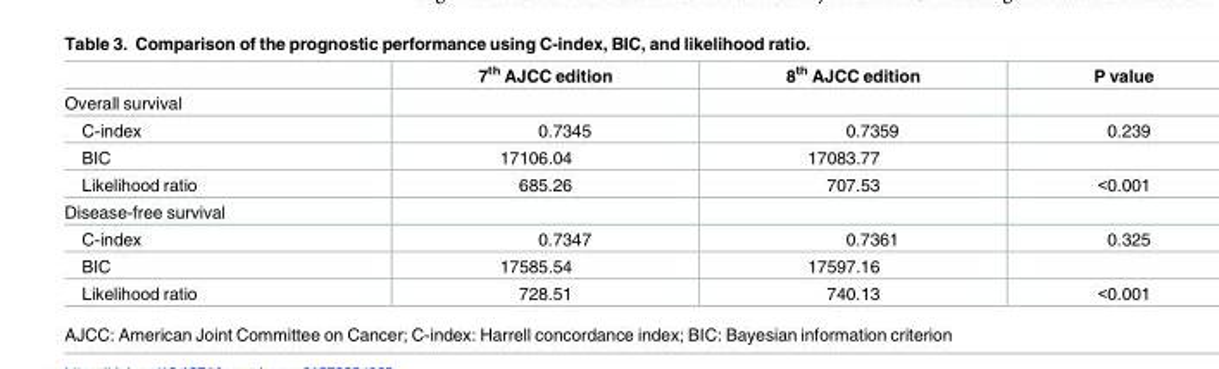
<table><thead><tr><td></td><td>7<sup>th</sup> AJCC edition</td><td>8<sup>th</sup> AJCC edition</td><td>P value</td></tr></thead><tbody><tr><td colspan="4">Overall survival</td></tr><tr><td>C-index</td><td>0.7345</td><td>0.7359</td><td>0.239</td></tr><tr><td>BIC</td><td>17106.04</td><td>17083.77</td><td></td></tr><tr><td>Likelihood ratio</td><td>685.26</td><td>707.53</td><td>&lt;0.001</td></tr><tr><td colspan="4">Disease-free survival</td></tr><tr><td>C-index</td><td>0.7347</td><td>0.7361</td><td>0.325</td></tr><tr><td>BIC</td><td>17585.54</td><td>17597.16</td><td></td></tr><tr><td>Likelihood ratio</td><td>728.51</td><td>740.13</td><td>&lt;0.001</td></tr></tbody></table>